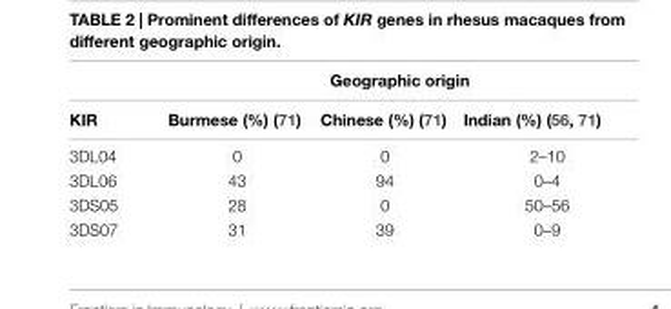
<table><thead><tr><td rowspan="2">KiR</td><td colspan="3">Geographic origin</td></tr><tr><td>Burmese (%) (71)</td><td>Chinese (%) (71)</td><td>indian (%) (56, 71)</td></tr></thead><tbody><tr><td>3DL04</td><td>0</td><td>0</td><td>2–10</td></tr><tr><td>3DL06</td><td>43</td><td>94</td><td>0–4</td></tr><tr><td>3DS05</td><td>28</td><td>0</td><td>50–56</td></tr><tr><td>3DS07</td><td>31</td><td>39</td><td>0–9</td></tr></tbody></table>